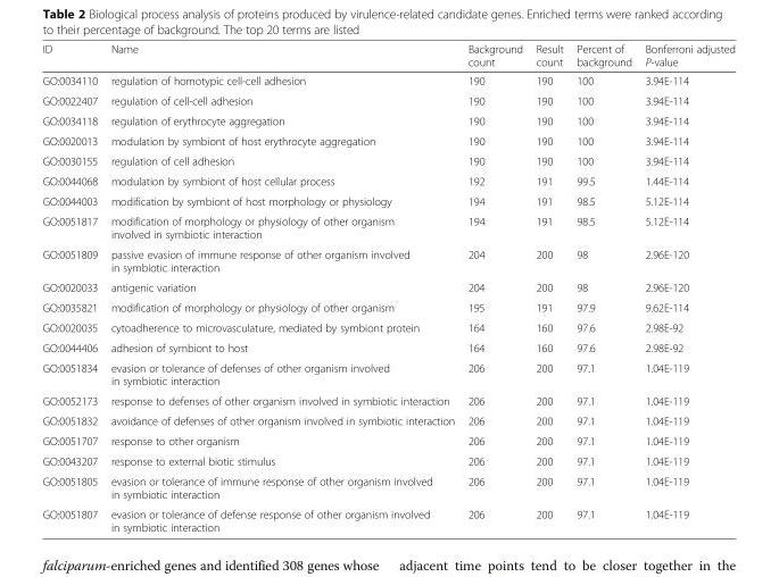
<table><thead><tr><td>ID</td><td>Name</td><td>Background count</td><td>Result count</td><td>Percent of background</td><td>Bonferroni adjusted P-value</td></tr></thead><tbody><tr><td>GO:0034110</td><td>regulation of homotypic cell-cell adhesion</td><td>190</td><td>190</td><td>100</td><td>3.94E-114</td></tr><tr><td>GO:0022407</td><td>regulation of cell-cell adhesion</td><td>190</td><td>190</td><td>100</td><td>3.94E-114</td></tr><tr><td>GO:0034118</td><td>regulation of erythrocyte aggregation</td><td>190</td><td>190</td><td>100</td><td>3.94E-114</td></tr><tr><td>GO:0020013</td><td>modulation by symbiont of host erythrocyte aggregation</td><td>190</td><td>190</td><td>100</td><td>3.94E-114</td></tr><tr><td>GO:0030155</td><td>regulation of cell adhesion</td><td>190</td><td>190</td><td>100</td><td>3.94E-114</td></tr><tr><td>GO:0044068</td><td>modulation by symbiont of host cellular process</td><td>192</td><td>191</td><td>99.5</td><td>1.44E-114</td></tr><tr><td>GO:0044003</td><td>modification by symbiont of host morphology or physiology</td><td>194</td><td>191</td><td>98.5</td><td>5.12E-114</td></tr><tr><td>GO:0051817</td><td>modification of morphology or physiology of other organism involved in symbiotic interaction</td><td>194</td><td>191</td><td>98.5</td><td>5.12E-114</td></tr><tr><td>GO:0051809</td><td>passive evasion of immune response of other organism involved in symbiotic interaction</td><td>204</td><td>200</td><td>98</td><td>2.96E-120</td></tr><tr><td>GO:0020033</td><td>antigenic variation</td><td>204</td><td>200</td><td>98</td><td>2.96E-120</td></tr><tr><td>GO:0035821</td><td>modification of morphology or physiology of other organism</td><td>195</td><td>191</td><td>97.9</td><td>9.62E-114</td></tr><tr><td>GO:0020035</td><td>cytoadherence to microvasculature, mediated by symbiont protein</td><td>164</td><td>160</td><td>97.6</td><td>2.98E-92</td></tr><tr><td>GO:0044406</td><td>adhesion of symbiont to host</td><td>164</td><td>160</td><td>97.6</td><td>2.98E-92</td></tr><tr><td>GO:0051834</td><td>evasion or tolerance of defenses of other organism involved in symbiotic interaction</td><td>206</td><td>200</td><td>97.1</td><td>1.04E-119</td></tr><tr><td>GO:0052173</td><td>response to defenses of other organism involved in symbiotic interaction</td><td>206</td><td>200</td><td>97.1</td><td>1.04E-119</td></tr><tr><td>GO:0051832</td><td>avoidance of defenses of other organism involved in symbiotic interaction</td><td>206</td><td>200</td><td>97.1</td><td>1.04E-119</td></tr><tr><td>GO:0051707</td><td>response to other organism</td><td>206</td><td>200</td><td>97.1</td><td>1.04E-119</td></tr><tr><td>GO:0043207</td><td>response to external biotic stimulus</td><td>206</td><td>200</td><td>97.1</td><td>1.04E-119</td></tr><tr><td>GO:0051805</td><td>evasion or tolerance of immune response of other organism involved in symbiotic interaction</td><td>206</td><td>200</td><td>97.1</td><td>1.04E-119</td></tr><tr><td>GO:0051807</td><td>evasion or tolerance of defense response of other organism involved in symbiotic interaction</td><td>206</td><td>200</td><td>97.1</td><td>1.04E-119</td></tr></tbody></table>